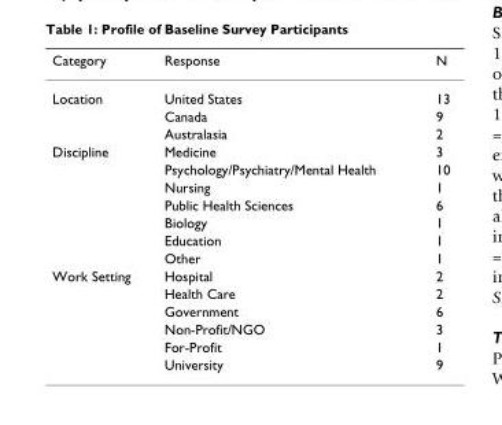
<table><thead><tr><td>Category</td><td>Response</td><td>N</td></tr></thead><tbody><tr><td rowspan="3">Location</td><td>United States</td><td>13</td></tr><tr><td>Canada</td><td>9</td></tr><tr><td>Australasia</td><td>2</td></tr><tr><td rowspan="7">Discipline</td><td>Medicine</td><td>3</td></tr><tr><td>Psychology/Psychiatry/Mental Health</td><td>10</td></tr><tr><td>Nursing</td><td>1</td></tr><tr><td>Public Health Sciences</td><td>6</td></tr><tr><td>Biology</td><td>1</td></tr><tr><td>Education</td><td>1</td></tr><tr><td>Other</td><td>1</td></tr><tr><td rowspan="6">Work Setting</td><td>Hospital</td><td>2</td></tr><tr><td>Health Care</td><td>2</td></tr><tr><td>Government</td><td>6</td></tr><tr><td>Non-Profit/NGO</td><td>3</td></tr><tr><td>For-Profit</td><td>1</td></tr><tr><td>University</td><td>9</td></tr></tbody></table>